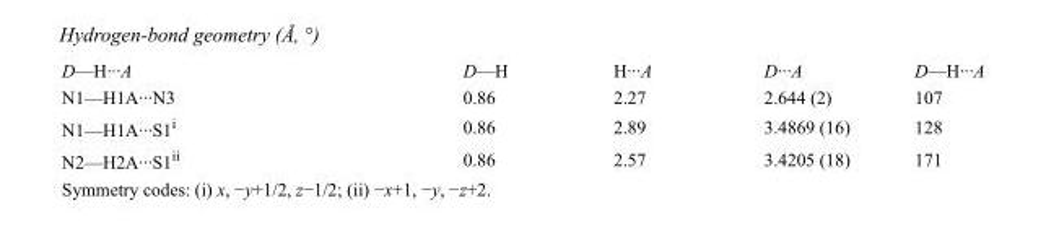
<table><tbody><tr><td>D—H···A</td><td>D—H</td><td>H···A</td><td>D···A</td><td>D—H···A</td></tr><tr><td>N1—H1A···N3</td><td>0.86</td><td>2.27</td><td>2.644 (2)</td><td>107</td></tr><tr><td>N1—H1A···S1<sup>i</sup></td><td>0.86</td><td>2.89</td><td>3.4869 (16)</td><td>128</td></tr><tr><td>N2—H2A···S1<sup>ii</sup></td><td>0.86</td><td>2.57</td><td>3.4205 (18)</td><td>171</td></tr></tbody></table>